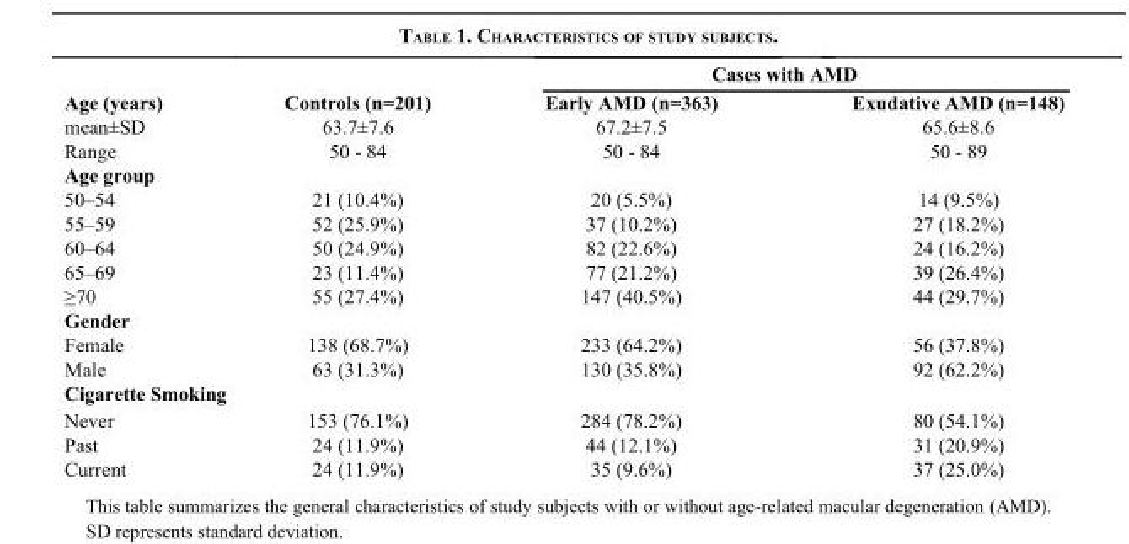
<table><thead><tr><td rowspan="2">Age (years)</td><td rowspan="2">Controls (n=201)</td><td colspan="2">Cases with AMD</td></tr><tr><td>Early AMD (n=363)</td><td>Exudative AMD (n=148)</td></tr></thead><tbody><tr><td>mean±SD</td><td>63.7±7.6</td><td>67.2±7.5</td><td>65.6±8.6</td></tr><tr><td>Range</td><td>50 - 84</td><td>50 - 84</td><td>50 - 89</td></tr><tr><td colspan="4">Age group</td></tr><tr><td>50–54</td><td>21 (10.4%)</td><td>20 (5.5%)</td><td>14 (9.5%)</td></tr><tr><td>55–59</td><td>52 (25.9%)</td><td>37 (10.2%)</td><td>27 (18.2%)</td></tr><tr><td>60–64</td><td>50 (24.9%)</td><td>82 (22.6%)</td><td>24 (16.2%)</td></tr><tr><td>65–69</td><td>23 (11.4%)</td><td>77 (21.2%)</td><td>39 (26.4%)</td></tr><tr><td>≥70</td><td>55 (27.4%)</td><td>147 (40.5%)</td><td>44 (29.7%)</td></tr><tr><td colspan="4">Gender</td></tr><tr><td>Female</td><td>138 (68.7%)</td><td>233 (64.2%)</td><td>56 (37.8%)</td></tr><tr><td>Male</td><td>63 (31.3%)</td><td>130 (35.8%)</td><td>92 (62.2%)</td></tr><tr><td colspan="4">Cigarette Smoking</td></tr><tr><td>Never</td><td>153 (76.1%)</td><td>284 (78.2%)</td><td>80 (54.1%)</td></tr><tr><td>Past</td><td>24 (11.9%)</td><td>44 (12.1%)</td><td>31 (20.9%)</td></tr><tr><td>Current</td><td>24 (11.9%)</td><td>35 (9.6%)</td><td>37 (25.0%)</td></tr></tbody></table>